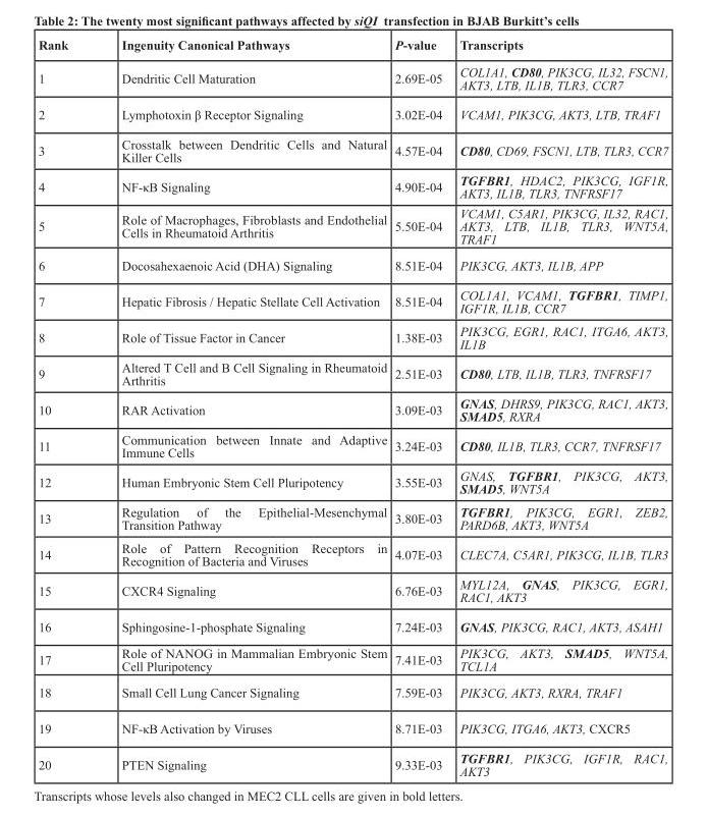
<table><thead><tr><td>Rank</td><td>Ingenuity Canonical Pathways</td><td>P-value</td><td>Transcripts</td></tr></thead><tbody><tr><td>1</td><td>Dendritic Cell Maturation</td><td>2.69E-05</td><td>COL1A1, CD80, PIK3CG, IL32, FSCN1, AKT3, LTB, IL1B, TLR3, CCR7</td></tr><tr><td>2</td><td>Lymphotoxin β Receptor Signaling</td><td>3.02E-04</td><td>VCAM1, PIK3CG, AKT3, LTB, TRAF1</td></tr><tr><td>3</td><td>Crosstalk between Dendritic Cells and Natural Killer Cells</td><td>4.57E-04</td><td>CD80, CD69, FSCN1, LTB, TLR3, CCR7</td></tr><tr><td>4</td><td>NF-κB Signaling</td><td>4.90E-04</td><td>TGFBR1, HDAC2, PIK3CG, IGF1R, AKT3, IL1B, TLR3, TNFRSF17</td></tr><tr><td>5</td><td>Role of Macrophages, Fibroblasts and Endothelial Cells in Rheumatoid Arthritis</td><td>5.50E-04</td><td>VCAM1, C5AR1, PIK3CG, IL32, RAC1, AKT3, LTB, IL1B, TLR3, WNT5A, TRAF1</td></tr><tr><td>6</td><td>Docosahexaenoic Acid (DHA) Signaling</td><td>8.51E-04</td><td>PIK3CG, AKT3, IL1B, APP</td></tr><tr><td>7</td><td>Hepatic Fibrosis / Hepatic Stellate Cell Activation</td><td>8.51E-04</td><td>COL1A1, VCAM1, TGFBR1, TIMP1, IGF1R, IL1B, CCR7</td></tr><tr><td>8</td><td>Role of Tissue Factor in Cancer</td><td>1.38E-03</td><td>PIK3CG, EGR1, RAC1, ITGA6, AKT3, IL1B</td></tr><tr><td>9</td><td>Altered T Cell and B Cell Signaling in Rheumatoid Arthritis</td><td>2.51E-03</td><td>CD80, LTB, IL1B, TLR3, TNFRSF17</td></tr><tr><td>10</td><td>RAR Activation</td><td>3.09E-03</td><td>GNAS, DHRS9, PIK3CG, RAC1, AKT3, SMAD5, RXRA</td></tr><tr><td>11</td><td>Communication between Innate and Adaptive Immune Cells</td><td>3.24E-03</td><td>CD80, IL1B, TLR3, CCR7, TNFRSF17</td></tr><tr><td>12</td><td>Human Embryonic Stem Cell Pluripotency</td><td>3.55E-03</td><td>GNAS, TGFBR1, PIK3CG, AKT3, SMAD5, WNT5A</td></tr><tr><td>13</td><td>Regulation of the Epithelial-Mesenchymal Transition Pathway</td><td>3.80E-03</td><td>TGFBR1, PIK3CG, EGR1, ZEB2, PARD6B, AKT3, WNT5A</td></tr><tr><td>14</td><td>Role of Pattern Recognition Receptors in Recognition of Bacteria and Viruses</td><td>4.07E-03</td><td>CLEC7A, C5AR1, PIK3CG, IL1B, TLR3</td></tr><tr><td>15</td><td>CXCR4 Signaling</td><td>6.76E-03</td><td>MYL12A, GNAS, PIK3CG, EGR1, RAC1, AKT3</td></tr><tr><td>16</td><td>Sphingosine-1-phosphate Signaling</td><td>7.24E-03</td><td>GNAS, PIK3CG, RAC1, AKT3, ASAH1</td></tr><tr><td>17</td><td>Role of NANOG in Mammalian Embryonic Stem Cell Pluripotency</td><td>7.41E-03</td><td>PIK3CG, AKT3, SMAD5, WNT5A, TCL1A</td></tr><tr><td>18</td><td>Small Cell Lung Cancer Signaling</td><td>7.59E-03</td><td>PIK3CG, AKT3, RXRA, TRAF1</td></tr><tr><td>19</td><td>NF-κB Activation by Viruses</td><td>8.71E-03</td><td>PIK3CG, ITGA6, AKT3, CXCR5</td></tr><tr><td>20</td><td>PTEN Signaling</td><td>9.33E-03</td><td>TGFBR1, PIK3CG, IGF1R, RAC1, AKT3</td></tr></tbody></table>